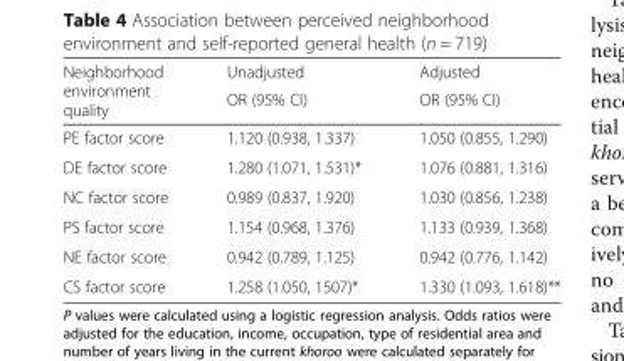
<table><thead><tr><td rowspan="2">Neighborhood environment quality</td><td rowspan="2">Unadjusted OR (95% CI)</td><td rowspan="2">Adjusted OR (95% CI)</td></tr><tr></tr></thead><tbody><tr><td>PE factor score</td><td>1.120 (0.938, 1.337)</td><td>1.050 (0.855, 1.290)</td></tr><tr><td>DE factor score</td><td>1.280 (1.071, 1.531)*</td><td>1.076 (0.881, 1.316)</td></tr><tr><td>NC factor score</td><td>0.989 (0.837, 1.920)</td><td>1.030 (0.856, 1.238)</td></tr><tr><td>PS factor score</td><td>1.154 (0.968, 1.376)</td><td>1.133 (0.939, 1.368)</td></tr><tr><td>NE factor score</td><td>0.942 (0.789, 1.125)</td><td>0.942 (0.776, 1.142)</td></tr><tr><td>CS factor score</td><td>1.258 (1.050, 1507)*</td><td>1.330 (1.093, 1.618)**</td></tr></tbody></table>